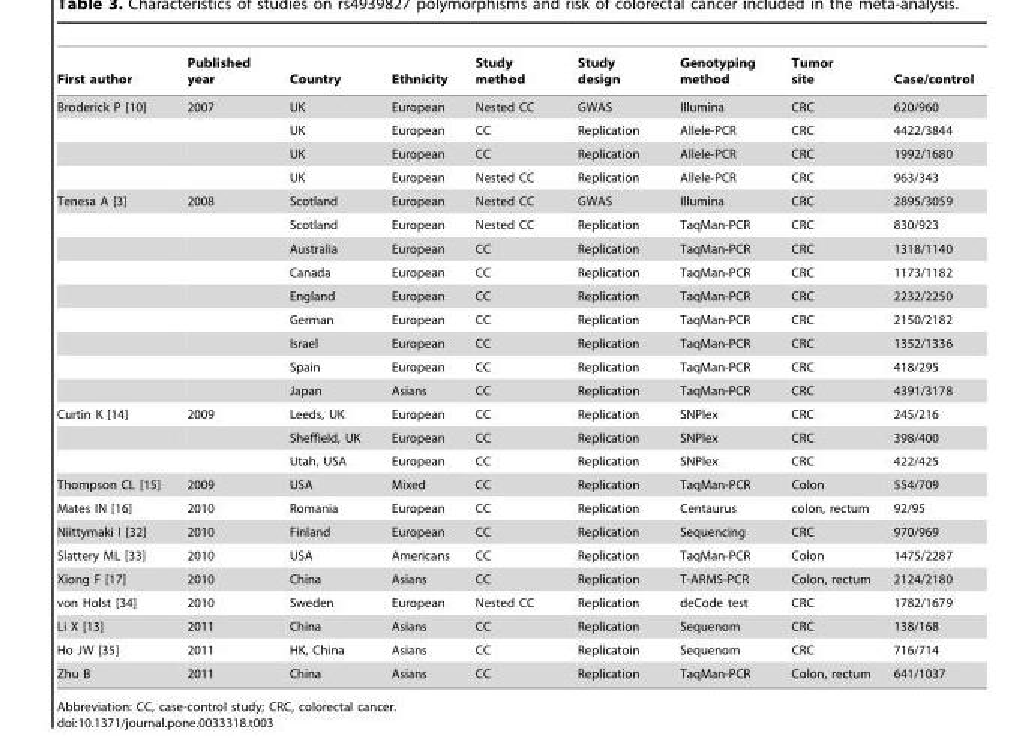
<table><thead><tr><td>First author</td><td>Published year</td><td>Country</td><td>Ethnicity</td><td>Study method</td><td>Study design</td><td>Genotyping method</td><td>Tumor site</td><td>Case/control</td></tr></thead><tbody><tr><td rowspan="4">Broderick P [10]</td><td>2007</td><td>UK</td><td>European</td><td>Nested CC</td><td>GWAS</td><td>Illumina</td><td>CRC</td><td>620/960</td></tr><tr><td></td><td>UK</td><td>European</td><td>CC</td><td>Replication</td><td>Allele-PCR</td><td>CRC</td><td>4422/3844</td></tr><tr><td></td><td>UK</td><td>European</td><td>CC</td><td>Replication</td><td>Allele-PCR</td><td>CRC</td><td>1992/1680</td></tr><tr><td></td><td>UK</td><td>European</td><td>Nested CC</td><td>Replication</td><td>Allele-PCR</td><td>CRC</td><td>963/343</td></tr><tr><td rowspan="9">Tenesa A [3]</td><td>2008</td><td>Scotland</td><td>European</td><td>Nested CC</td><td>GWAS</td><td>Illumina</td><td>CRC</td><td>2895/3059</td></tr><tr><td></td><td>Scotland</td><td>European</td><td>Nested CC</td><td>Replication</td><td>TaqMan-PCR</td><td>CRC</td><td>830/923</td></tr><tr><td></td><td>Australia</td><td>European</td><td>CC</td><td>Replication</td><td>TaqMan-PCR</td><td>CRC</td><td>1318/1140</td></tr><tr><td></td><td>Canada</td><td>European</td><td>CC</td><td>Replication</td><td>TaqMan-PCR</td><td>CRC</td><td>1173/1182</td></tr><tr><td></td><td>England</td><td>European</td><td>CC</td><td>Replication</td><td>TaqMan-PCR</td><td>CRC</td><td>2232/2250</td></tr><tr><td></td><td>German</td><td>European</td><td>CC</td><td>Replication</td><td>TaqMan-PCR</td><td>CRC</td><td>2150/2182</td></tr><tr><td></td><td>Israel</td><td>European</td><td>CC</td><td>Replication</td><td>TaqMan-PCR</td><td>CRC</td><td>1352/1336</td></tr><tr><td></td><td>Spain</td><td>European</td><td>CC</td><td>Replication</td><td>TaqMan-PCR</td><td>CRC</td><td>418/295</td></tr><tr><td></td><td>Japan</td><td>Asians</td><td>CC</td><td>Replication</td><td>TaqMan-PCR</td><td>CRC</td><td>4391/3178</td></tr><tr><td rowspan="3">Curtin K [14]</td><td>2009</td><td>Leeds, UK</td><td>European</td><td>CC</td><td>Replication</td><td>SNPlex</td><td>CRC</td><td>245/216</td></tr><tr><td></td><td>Sheffield, UK</td><td>European</td><td>CC</td><td>Replication</td><td>SNPlex</td><td>CRC</td><td>398/400</td></tr><tr><td></td><td>Utah, USA</td><td>European</td><td>CC</td><td>Replication</td><td>SNPlex</td><td>CRC</td><td>422/425</td></tr><tr><td>Thompson CL [15]</td><td>2009</td><td>USA</td><td>Mixed</td><td>CC</td><td>Replication</td><td>TaqMan-PCR</td><td>Colon</td><td>554/709</td></tr><tr><td>Mates IN [16]</td><td>2010</td><td>Romania</td><td>European</td><td>CC</td><td>Replication</td><td>Centaurus</td><td>colon, rectum</td><td>92/95</td></tr><tr><td>Niittymaki I [32]</td><td>2010</td><td>Finland</td><td>European</td><td>CC</td><td>Replication</td><td>Sequencing</td><td>CRC</td><td>970/969</td></tr><tr><td>Slattery ML [33]</td><td>2010</td><td>USA</td><td>Americans</td><td>CC</td><td>Replication</td><td>TaqMan-PCR</td><td>Colon</td><td>1475/2287</td></tr><tr><td>Xiong F [17]</td><td>2010</td><td>China</td><td>Asians</td><td>CC</td><td>Replication</td><td>T-ARMS-PCR</td><td>Colon, rectum</td><td>2124/2180</td></tr><tr><td>von Holst [34]</td><td>2010</td><td>Sweden</td><td>European</td><td>Nested CC</td><td>Replication</td><td>deCode test</td><td>CRC</td><td>1782/1679</td></tr><tr><td>Li X [13]</td><td>2011</td><td>China</td><td>Asians</td><td>CC</td><td>Replication</td><td>Sequenom</td><td>CRC</td><td>138/168</td></tr><tr><td>Ho JW [35]</td><td>2011</td><td>HK, China</td><td>Asians</td><td>CC</td><td>Replicatoin</td><td>Sequenom</td><td>CRC</td><td>716/714</td></tr><tr><td>Zhu B</td><td>2011</td><td>China</td><td>Asians</td><td>CC</td><td>Replication</td><td>TaqMan-PCR</td><td>Colon, rectum</td><td>641/1037</td></tr></tbody></table>